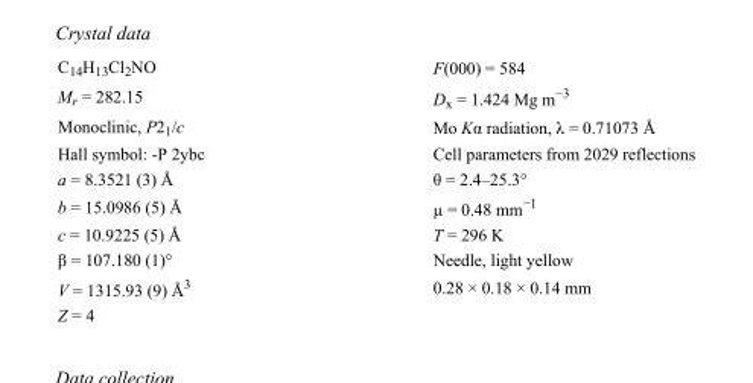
<table><tbody><tr><td>C<sub>14</sub>H<sub>13</sub>Cl<sub>2</sub>NO</td><td>F(000) = 584</td></tr><tr><td>M<sub>r</sub> = 282.15</td><td>D<sub>x</sub> = 1.424 Mg m<sup>−3</sup></td></tr><tr><td>Monoclinic, P2<sub>1</sub>/c</td><td>Mo Kα radiation, λ = 0.71073 Å</td></tr><tr><td>Hall symbol: -P 2ybc</td><td>Cell parameters from 2029 reflections</td></tr><tr><td>a = 8.3521 (3) Å</td><td>θ = 2.4–25.3°</td></tr><tr><td>b = 15.0986 (5) Å</td><td>µ = 0.48 mm<sup>−1</sup></td></tr><tr><td>c = 10.9225 (5) Å</td><td>T = 296 K</td></tr><tr><td>β = 107.180 (1)°</td><td>Needle, light yellow</td></tr><tr><td>V = 1315.93 (9) Å<sup>3</sup></td><td>0.28 × 0.18 × 0.14 mm</td></tr><tr><td>Z = 4</td><td></td></tr></tbody></table>